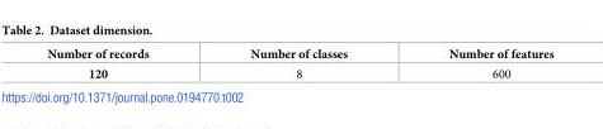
<table><thead><tr><td>Number of records</td><td>Number of classes</td><td>Number of features</td></tr></thead><tbody><tr><td>120</td><td>8</td><td>600</td></tr></tbody></table>